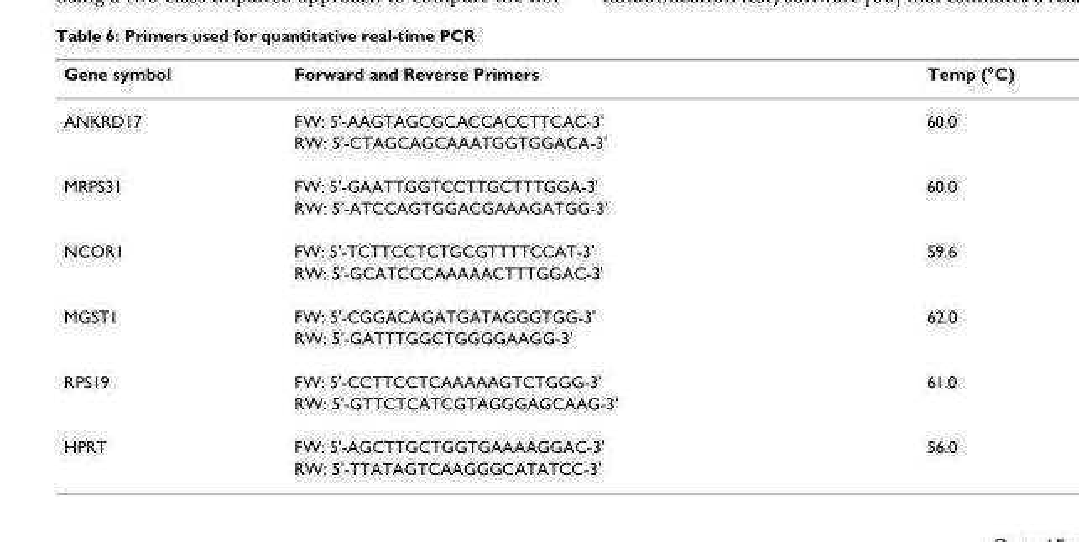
<table><thead><tr><td>Gene symbol</td><td>Forward and Reverse Primers</td><td>Temp (°C)</td></tr></thead><tbody><tr><td rowspan="2">ANKRD17</td><td>FW: 5&#x27;-AAGTAGCGCACCACCTTCAC-3&#x27;</td><td>60.0</td></tr><tr><td>RW: 5&#x27;-CTAGCAGCAAATGGTGGACA-3&#x27;</td><td></td></tr><tr><td rowspan="2">MRPS31</td><td>FW: 5&#x27;-GAATTGGTCCTTGCTTTGGA-3&#x27;</td><td>60.0</td></tr><tr><td>RW: 5&#x27;-ATCCAGTGGACGAAAGATGG-3&#x27;</td><td></td></tr><tr><td rowspan="2">NCOR1</td><td>FW: 5&#x27;-TCTTCCTCTGCGTTTTCCAT-3&#x27;</td><td>59.6</td></tr><tr><td>RW: 5&#x27;-GCATCCCAAAAACTTTGGAC-3&#x27;</td><td></td></tr><tr><td rowspan="2">MGST1</td><td>FW: 5&#x27;-CGGACAGATGATAGGGTGG-3&#x27;</td><td>62.0</td></tr><tr><td>RW: 5&#x27;-GATTTGGCTGGGGAAGG-3&#x27;</td><td></td></tr><tr><td rowspan="2">RPS19</td><td>FW: 5&#x27;-CCTTCCTCAAAAAGTCTGGG-3&#x27;</td><td>61.0</td></tr><tr><td>RW: 5&#x27;-GTTCTCATCGTAGGGAGCAAG-3&#x27;</td><td></td></tr><tr><td rowspan="2">HPRT</td><td>FW: 5&#x27;-AGCTTGCTGGTGAAAAGGAC-3&#x27;</td><td>56.0</td></tr><tr><td>RW: 5&#x27;-TTATAGTCAAGGGCATATCC-3&#x27;</td><td></td></tr></tbody></table>